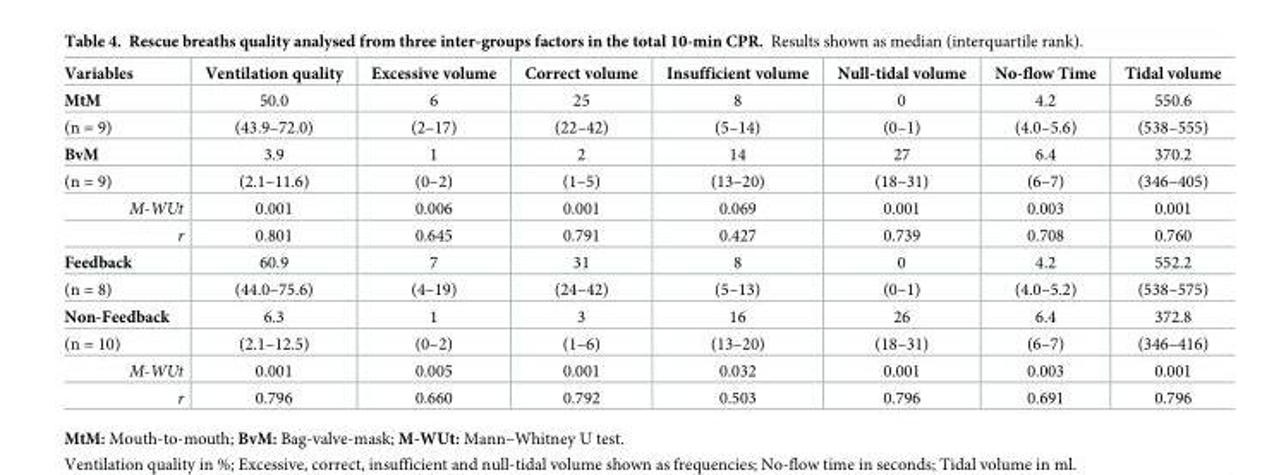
<table><thead><tr><td>Variables</td><td>Ventilation quality</td><td>Excessive volume</td><td>Correct volume</td><td>Insufficient volume</td><td>Null-tidal volume</td><td>No-flow Time</td><td>Tidal volume</td></tr></thead><tbody><tr><td>MtM</td><td>50.0</td><td>6</td><td>25</td><td>8</td><td>0</td><td>4.2</td><td>550.6</td></tr><tr><td>(n = 9)</td><td>(43.9–72.0)</td><td>(2–17)</td><td>(22–42)</td><td>(5–14)</td><td>(0–1)</td><td>(4.0–5.6)</td><td>(538–555)</td></tr><tr><td>BvM</td><td>3.9</td><td>1</td><td>2</td><td>14</td><td>27</td><td>6.4</td><td>370.2</td></tr><tr><td>(n = 9)</td><td>(2.1–11.6)</td><td>(0–2)</td><td>(1–5)</td><td>(13–20)</td><td>(18–31)</td><td>(6–7)</td><td>(346–405)</td></tr><tr><td>M-WUt</td><td>0.001</td><td>0.006</td><td>0.001</td><td>0.069</td><td>0.001</td><td>0.003</td><td>0.001</td></tr><tr><td>r</td><td>0.801</td><td>0.645</td><td>0.791</td><td>0.427</td><td>0.739</td><td>0.708</td><td>0.760</td></tr><tr><td>Feedback</td><td>60.9</td><td>7</td><td>31</td><td>8</td><td>0</td><td>4.2</td><td>552.2</td></tr><tr><td>(n = 8)</td><td>(44.0–75.6)</td><td>(4–19)</td><td>(24–42)</td><td>(5–13)</td><td>(0–1)</td><td>(4.0–5.2)</td><td>(538–575)</td></tr><tr><td>Non-Feedback</td><td>6.3</td><td>1</td><td>3</td><td>16</td><td>26</td><td>6.4</td><td>372.8</td></tr><tr><td>(n = 10)</td><td>(2.1–12.5)</td><td>(0–2)</td><td>(1–6)</td><td>(13–20)</td><td>(18–31)</td><td>(6–7)</td><td>(346–416)</td></tr><tr><td>M-WUt</td><td>0.001</td><td>0.005</td><td>0.001</td><td>0.032</td><td>0.001</td><td>0.003</td><td>0.001</td></tr><tr><td>r</td><td>0.796</td><td>0.660</td><td>0.792</td><td>0.503</td><td>0.796</td><td>0.691</td><td>0.796</td></tr></tbody></table>